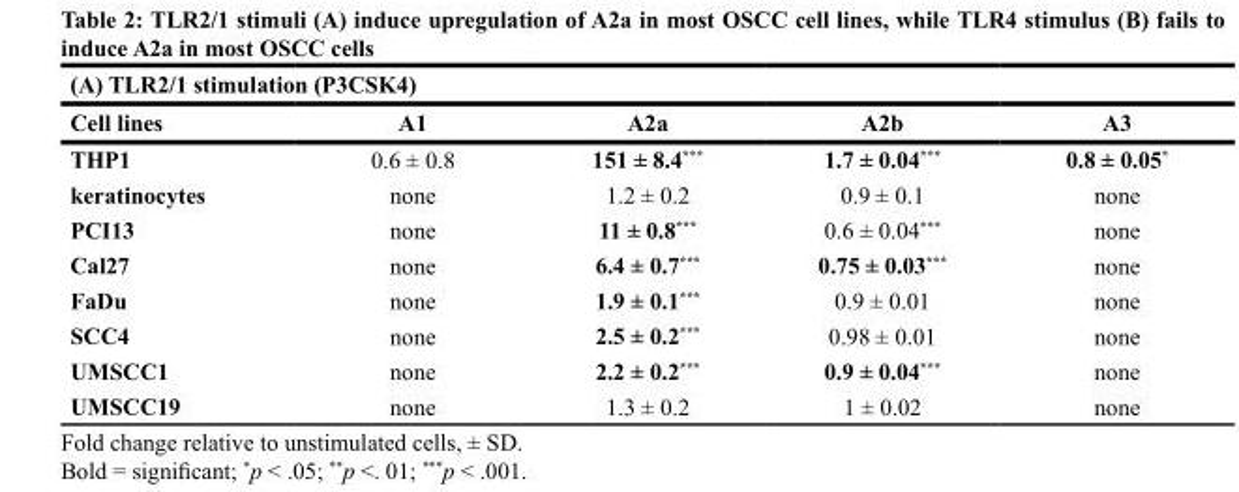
<table><thead><tr><td colspan="5">(A) TLR2/1 stimulation (P3CSK4)</td></tr><tr><td>Cell lines</td><td>A1</td><td>A2a</td><td>A2b</td><td>A3</td></tr></thead><tbody><tr><td>THP1</td><td>0.6 ± 0.8</td><td>151 ± 8.4***</td><td>1.7 ± 0.04***</td><td>0.8 ± 0.05*</td></tr><tr><td>keratinocytes</td><td>none</td><td>1.2 ± 0.2</td><td>0.9 ± 0.1</td><td>none</td></tr><tr><td>PCI13</td><td>none</td><td>11 ± 0.8***</td><td>0.6 ± 0.04***</td><td>none</td></tr><tr><td>Cal27</td><td>none</td><td>6.4 ± 0.7***</td><td>0.75 ± 0.03***</td><td>none</td></tr><tr><td>FaDu</td><td>none</td><td>1.9 ± 0.1***</td><td>0.9 ± 0.01</td><td>none</td></tr><tr><td>SCC4</td><td>none</td><td>2.5 ± 0.2***</td><td>0.98 ± 0.01</td><td>none</td></tr><tr><td>UMSCC1</td><td>none</td><td>2.2 ± 0.2***</td><td>0.9 ± 0.04***</td><td>none</td></tr><tr><td>UMSCC19</td><td>none</td><td>1.3 ± 0.2</td><td>1 ± 0.02</td><td>none</td></tr></tbody></table>